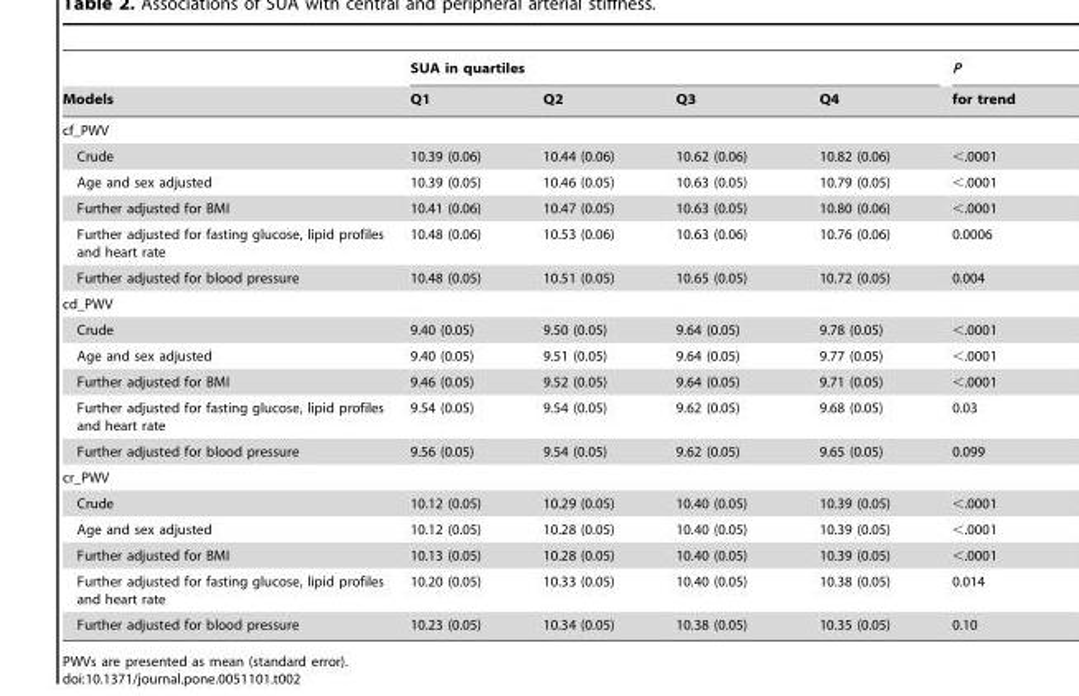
<table><thead><tr><td rowspan="2">Models</td><td colspan="4">SUA in quartiles</td><td rowspan="2">P for trend</td></tr><tr><td>Q1</td><td>Q2</td><td>Q3</td><td>Q4</td></tr></thead><tbody><tr><td colspan="6">cf_PWV</td></tr><tr><td>Crude</td><td>10.39 (0.06)</td><td>10.44 (0.06)</td><td>10.62 (0.06)</td><td>10.82 (0.06)</td><td>&lt;.0001</td></tr><tr><td>Age and sex adjusted</td><td>10.39 (0.05)</td><td>10.46 (0.05)</td><td>10.63 (0.05)</td><td>10.79 (0.05)</td><td>&lt;.0001</td></tr><tr><td>Further adjusted for BMI</td><td>10.41 (0.06)</td><td>10.47 (0.05)</td><td>10.63 (0.05)</td><td>10.80 (0.06)</td><td>&lt;.0001</td></tr><tr><td>Further adjusted for fasting glucose, lipid profiles and heart rate</td><td>10.48 (0.06)</td><td>10.53 (0.06)</td><td>10.63 (0.06)</td><td>10.76 (0.06)</td><td>0.0006</td></tr><tr><td>Further adjusted for blood pressure</td><td>10.48 (0.05)</td><td>10.51 (0.05)</td><td>10.65 (0.05)</td><td>10.72 (0.05)</td><td>0.004</td></tr><tr><td colspan="6">cd_PWV</td></tr><tr><td>Crude</td><td>9.40 (0.05)</td><td>9.50 (0.05)</td><td>9.64 (0.05)</td><td>9.78 (0.05)</td><td>&lt;.0001</td></tr><tr><td>Age and sex adjusted</td><td>9.40 (0.05)</td><td>9.51 (0.05)</td><td>9.64 (0.05)</td><td>9.77 (0.05)</td><td>&lt;.0001</td></tr><tr><td>Further adjusted for BMI</td><td>9.46 (0.05)</td><td>9.52 (0.05)</td><td>9.64 (0.05)</td><td>9.71 (0.05)</td><td>&lt;.0001</td></tr><tr><td>Further adjusted for fasting glucose, lipid profiles and heart rate</td><td>9.54 (0.05)</td><td>9.54 (0.05)</td><td>9.62 (0.05)</td><td>9.68 (0.05)</td><td>0.03</td></tr><tr><td>Further adjusted for blood pressure</td><td>9.56 (0.05)</td><td>9.54 (0.05)</td><td>9.62 (0.05)</td><td>9.65 (0.05)</td><td>0.099</td></tr><tr><td colspan="6">cr_PWV</td></tr><tr><td>Crude</td><td>10.12 (0.05)</td><td>10.29 (0.05)</td><td>10.40 (0.05)</td><td>10.39 (0.05)</td><td>&lt;.0001</td></tr><tr><td>Age and sex adjusted</td><td>10.12 (0.05)</td><td>10.28 (0.05)</td><td>10.40 (0.05)</td><td>10.39 (0.05)</td><td>&lt;.0001</td></tr><tr><td>Further adjusted for BMI</td><td>10.13 (0.05)</td><td>10.28 (0.05)</td><td>10.40 (0.05)</td><td>10.39 (0.05)</td><td>&lt;.0001</td></tr><tr><td>Further adjusted for fasting glucose, lipid profiles and heart rate</td><td>10.20 (0.05)</td><td>10.33 (0.05)</td><td>10.40 (0.05)</td><td>10.38 (0.05)</td><td>0.014</td></tr><tr><td>Further adjusted for blood pressure</td><td>10.23 (0.05)</td><td>10.34 (0.05)</td><td>10.38 (0.05)</td><td>10.35 (0.05)</td><td>0.10</td></tr></tbody></table>